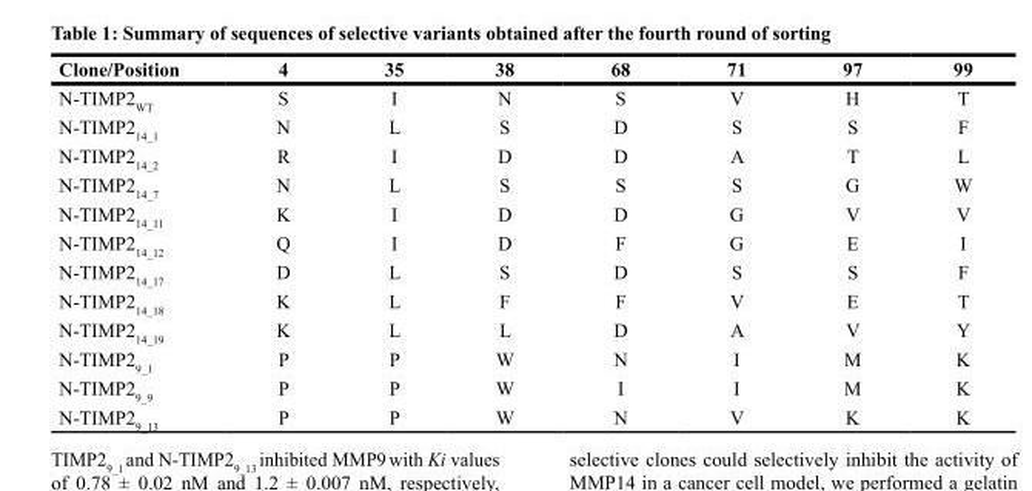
<table><thead><tr><td>Clone/Position</td><td>4</td><td>35</td><td>38</td><td>68</td><td>71</td><td>97</td><td>99</td></tr></thead><tbody><tr><td>N-TIMP2<sub>WT</sub></td><td>S</td><td>I</td><td>N</td><td>S</td><td>V</td><td>H</td><td>T</td></tr><tr><td>N-TIMP2<sub>14_1</sub></td><td>N</td><td>L</td><td>S</td><td>D</td><td>S</td><td>S</td><td>F</td></tr><tr><td>N-TIMP2<sub>14_2</sub></td><td>R</td><td>I</td><td>D</td><td>D</td><td>A</td><td>T</td><td>L</td></tr><tr><td>N-TIMP2<sub>14_7</sub></td><td>N</td><td>L</td><td>S</td><td>S</td><td>S</td><td>G</td><td>W</td></tr><tr><td>N-TIMP2<sub>14_11</sub></td><td>K</td><td>I</td><td>D</td><td>D</td><td>G</td><td>V</td><td>V</td></tr><tr><td>N-TIMP2<sub>14_12</sub></td><td>Q</td><td>I</td><td>D</td><td>F</td><td>G</td><td>E</td><td>I</td></tr><tr><td>N-TIMP2<sub>14_17</sub></td><td>D</td><td>L</td><td>S</td><td>D</td><td>S</td><td>S</td><td>F</td></tr><tr><td>N-TIMP2<sub>14_18</sub></td><td>K</td><td>L</td><td>F</td><td>F</td><td>V</td><td>E</td><td>T</td></tr><tr><td>N-TIMP2<sub>14_19</sub></td><td>K</td><td>L</td><td>L</td><td>D</td><td>A</td><td>V</td><td>Y</td></tr><tr><td>N-TIMP2<sub>9_1</sub></td><td>P</td><td>P</td><td>W</td><td>N</td><td>I</td><td>M</td><td>K</td></tr><tr><td>N-TIMP2<sub>9_9</sub></td><td>P</td><td>P</td><td>W</td><td>I</td><td>I</td><td>M</td><td>K</td></tr><tr><td>N-TIMP2<sub>9_13</sub></td><td>P</td><td>P</td><td>W</td><td>N</td><td>V</td><td>K</td><td>K</td></tr></tbody></table>